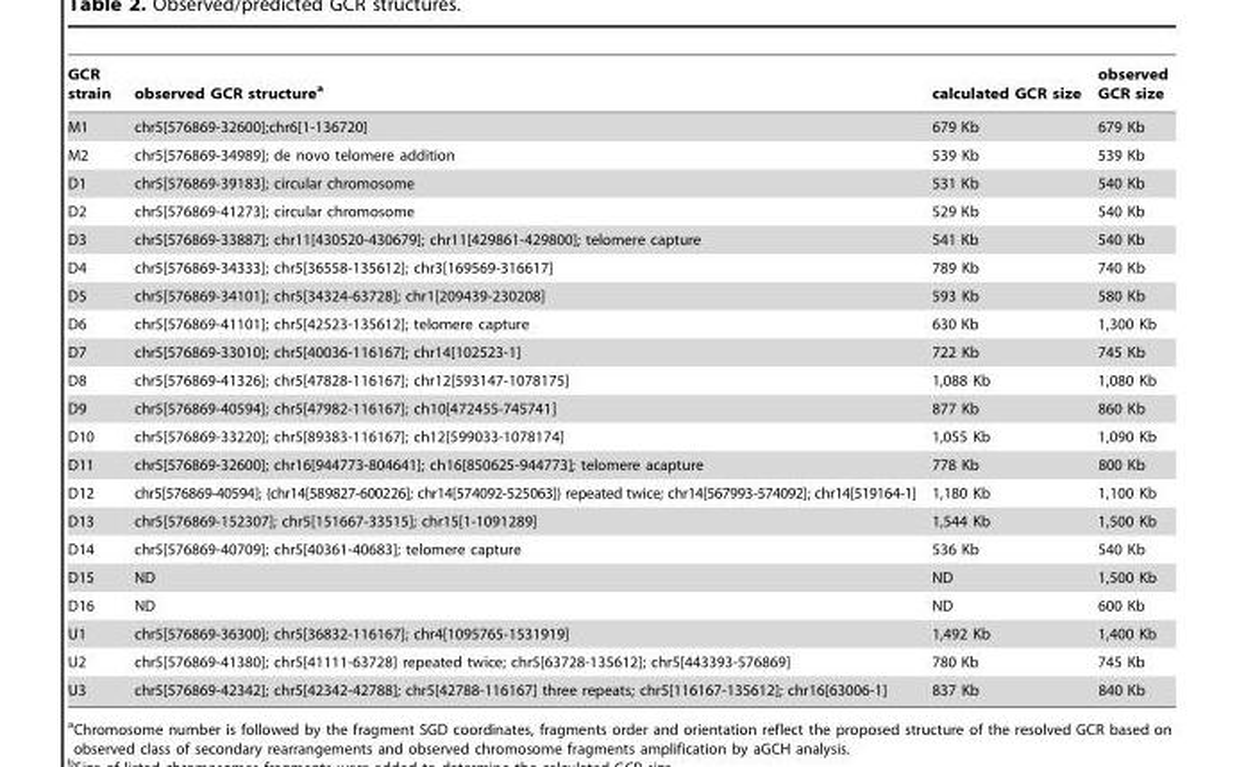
<table><thead><tr><td>GCR strain</td><td>observed GCR structure<sup>a</sup></td><td>calculated GCR size</td><td>observed GCR size</td></tr></thead><tbody><tr><td>M1</td><td>chr5[576869-32600];chr6[1-136720]</td><td>679 Kb</td><td>679 Kb</td></tr><tr><td>M2</td><td>chr5[576869-34989]; de novo telomere addition</td><td>539 Kb</td><td>539 Kb</td></tr><tr><td>D1</td><td>chr5[576869-39183]; circular chromosome</td><td>531 Kb</td><td>540 Kb</td></tr><tr><td>D2</td><td>chr5[576869-41273]; circular chromosome</td><td>529 Kb</td><td>540 Kb</td></tr><tr><td>D3</td><td>chr5[576869-33887]; chr11[430520-430679]; chr11[429861-429800]; telomere capture</td><td>541 Kb</td><td>540 Kb</td></tr><tr><td>D4</td><td>chr5[576869-34333]; chr5[36558-135612]; chr3[169569-316617]</td><td>789 Kb</td><td>740 Kb</td></tr><tr><td>D5</td><td>chr5[576869-34101]; chr5[34324-63728]; chr1[209439-230208]</td><td>593 Kb</td><td>580 Kb</td></tr><tr><td>D6</td><td>chr5[576869-41101]; chr5[42523-135612]; telomere capture</td><td>630 Kb</td><td>1,300 Kb</td></tr><tr><td>D7</td><td>chr5[576869-33010]; chr5[40036-116167]; chr14[102523-1]</td><td>722 Kb</td><td>745 Kb</td></tr><tr><td>D8</td><td>chr5[576869-41326]; chr5[47828-116167]; chr12[593147-1078175]</td><td>1,088 Kb</td><td>1,080 Kb</td></tr><tr><td>D9</td><td>chr5[576869-40594]; chr5[47982-116167]; ch10[472455-745741]</td><td>877 Kb</td><td>860 Kb</td></tr><tr><td>D10</td><td>chr5[576869-33220]; chr5[89383-116167]; ch12[599033-1078174]</td><td>1,055 Kb</td><td>1,090 Kb</td></tr><tr><td>D11</td><td>chr5[576869-32600]; chr16[944773-804641]; ch16[850625-944773]; telomere acapture</td><td>778 Kb</td><td>800 Kb</td></tr><tr><td>D12</td><td>chr5[576869-40594]; {chr14[589827-600226]; chr14[574092-525063]} repeated twice; chr14[567993-574092]; chr14[519164-1]</td><td>1,180 Kb</td><td>1,100 Kb</td></tr><tr><td>D13</td><td>chr5[576869-152307]; chr5[151667-33515]; chr15[1-1091289]</td><td>1,544 Kb</td><td>1,500 Kb</td></tr><tr><td>D14</td><td>chr5[576869-40709]; chr5[40361-40683]; telomere capture</td><td>536 Kb</td><td>540 Kb</td></tr><tr><td>D15</td><td>ND</td><td>ND</td><td>1,500 Kb</td></tr><tr><td>D16</td><td>ND</td><td>ND</td><td>600 Kb</td></tr><tr><td>U1</td><td>chr5[576869-36300]; chr5[36832-116167]; chr4[1095765-1531919]</td><td>1,492 Kb</td><td>1,400 Kb</td></tr><tr><td>U2</td><td>chr5[576869-41380]; chr5[41111-63728] repeated twice; chr5[63728-135612]; chr5[443393-576869]</td><td>780 Kb</td><td>745 Kb</td></tr><tr><td>U3</td><td>chr5[576869-42342]; chr5[42342-42788]; chr5[42788-116167] three repeats; chr5[116167-135612]; chr16[63006-1]</td><td>837 Kb</td><td>840 Kb</td></tr></tbody></table>